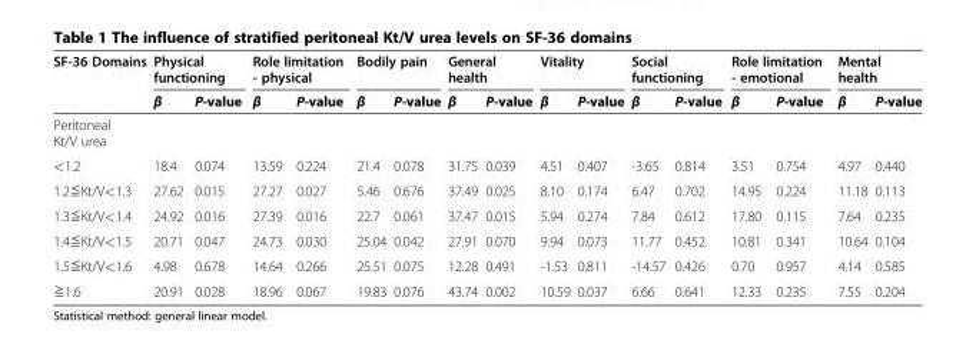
<table><thead><tr><td rowspan="2">SF-36 Domains</td><td colspan="2">Physical functioning</td><td colspan="2">Role limitation - physical</td><td colspan="2">Bodily pain</td><td colspan="2">General health</td><td colspan="2">Vitality</td><td colspan="2">Social functioning</td><td colspan="2">Role limitation - emotional</td><td colspan="2">Mental health</td></tr><tr><td>β</td><td>P-value</td><td>β</td><td>P-value</td><td>β</td><td>P-value</td><td>β</td><td>P-value</td><td>β</td><td>P-value</td><td>β</td><td>P-value</td><td>β</td><td>P-value</td><td>β</td><td>P-value</td></tr></thead><tbody><tr><td colspan="17">Peritoneal Kt/V urea</td></tr><tr><td>&lt;1.2</td><td>18.4</td><td>0.074</td><td>13.59</td><td>0.224</td><td>21.4</td><td>0.078</td><td>31.75</td><td>0.039</td><td>4.51</td><td>0.407</td><td>-3.65</td><td>0.814</td><td>3.51</td><td>0.754</td><td>4.97</td><td>0.440</td></tr><tr><td>1.2≦Kt/V&lt;1.3</td><td>27.62</td><td>0.015</td><td>27.27</td><td>0.027</td><td>5.46</td><td>0.676</td><td>37.49</td><td>0.025</td><td>8.10</td><td>0.174</td><td>6.47</td><td>0.702</td><td>14.95</td><td>0.224</td><td>11.18</td><td>0.113</td></tr><tr><td>1.3≦Kt/V&lt;1.4</td><td>24.92</td><td>0.016</td><td>27.39</td><td>0.016</td><td>22.7</td><td>0.061</td><td>37.47</td><td>0.015</td><td>5.94</td><td>0.274</td><td>7.84</td><td>0.612</td><td>17.80</td><td>0.115</td><td>7.64</td><td>0.235</td></tr><tr><td>1.4≦Kt/V&lt;1.5</td><td>20.71</td><td>0.047</td><td>24.73</td><td>0.030</td><td>25.04</td><td>0.042</td><td>27.91</td><td>0.070</td><td>9.94</td><td>0.073</td><td>11.77</td><td>0.452</td><td>10.81</td><td>0.341</td><td>10.64</td><td>0.104</td></tr><tr><td>1.5≦Kt/V&lt;1.6</td><td>4.98</td><td>0.678</td><td>14.64</td><td>0.266</td><td>25.51</td><td>0.075</td><td>12.28</td><td>0.491</td><td>-1.53</td><td>0.811</td><td>-14.57</td><td>0.426</td><td>0.70</td><td>0.957</td><td>4.14</td><td>0.585</td></tr><tr><td>≧1.6</td><td>20.91</td><td>0.028</td><td>18.96</td><td>0.067</td><td>19.83</td><td>0.076</td><td>43.74</td><td>0.002</td><td>10.59</td><td>0.037</td><td>6.66</td><td>0.641</td><td>12.33</td><td>0.235</td><td>7.55</td><td>0.204</td></tr></tbody></table>